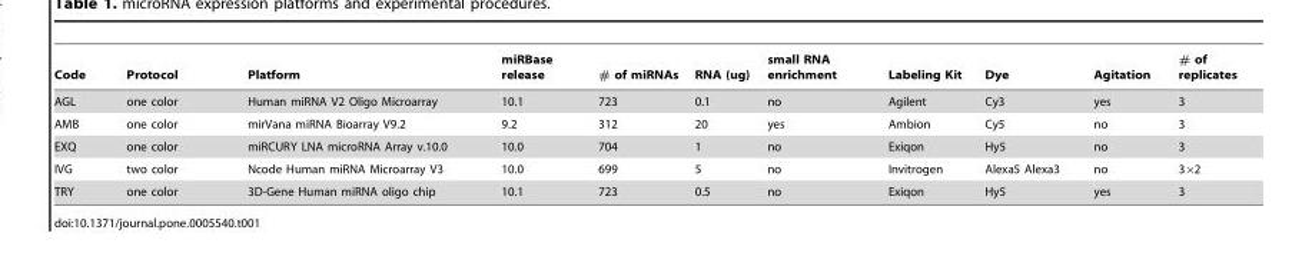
<table><thead><tr><td>Code</td><td>Protocol</td><td>Platform</td><td>miRBase release</td><td># of miRNAs</td><td>RNA (ug)</td><td>small RNA enrichment</td><td>Labeling Kit</td><td>Dye</td><td>Agitation</td><td># of replicates</td></tr></thead><tbody><tr><td>AGL</td><td>one color</td><td>Human miRNA V2 Oligo Microarray</td><td>10.1</td><td>723</td><td>0.1</td><td>no</td><td>Agilent</td><td>Cy3</td><td>yes</td><td>3</td></tr><tr><td>AMB</td><td>one color</td><td>mirVana miRNA Bioarray V9.2</td><td>9.2</td><td>312</td><td>20</td><td>yes</td><td>Ambion</td><td>Cy5</td><td>no</td><td>3</td></tr><tr><td>EXQ</td><td>one color</td><td>miRCURY LNA microRNA Array v.10.0</td><td>10.0</td><td>704</td><td>1</td><td>no</td><td>Exiqon</td><td>Hy5</td><td>no</td><td>3</td></tr><tr><td>IVG</td><td>two color</td><td>Ncode Human miRNA Microarray V3</td><td>10.0</td><td>699</td><td>5</td><td>no</td><td>Invitrogen</td><td>Alexa5 Alexa3</td><td>no</td><td>3×2</td></tr><tr><td>TRY</td><td>one color</td><td>3D-Gene Human miRNA oligo chip</td><td>10.1</td><td>723</td><td>0.5</td><td>no</td><td>Exiqon</td><td>Hy5</td><td>yes</td><td>3</td></tr></tbody></table>